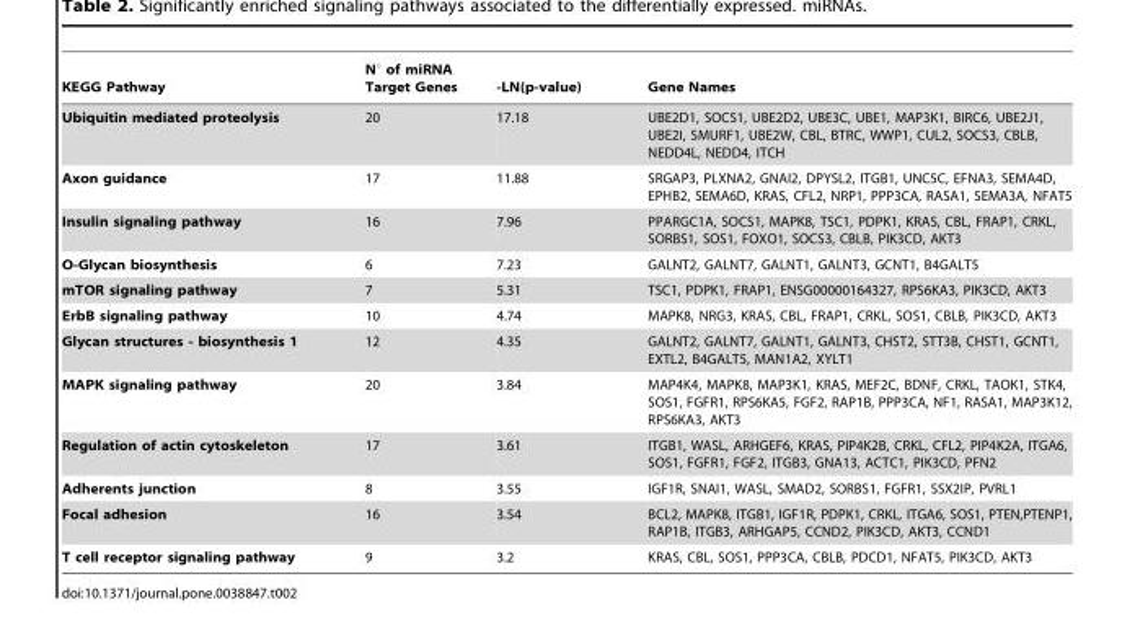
<table><thead><tr><td>KEGG Pathway</td><td>N° of miRNA Target Genes</td><td>-LN(p-value)</td><td>Gene Names</td></tr></thead><tbody><tr><td>Ubiquitin mediated proteolysis</td><td>20</td><td>17.18</td><td>UBE2D1, SOCS1, UBE2D2, UBE3C, UBE1, MAP3K1, BIRC6, UBE2J1, UBE2I, SMURF1, UBE2W, CBL, BTRC, WWP1, CUL2, SOCS3, CBLB, NEDD4L, NEDD4, ITCH</td></tr><tr><td>Axon guidance</td><td>17</td><td>11.88</td><td>SRGAP3, PLXNA2, GNAI2, DPYSL2, ITGB1, UNC5C, EFNA3, SEMA4D, EPHB2, SEMA6D, KRAS, CFL2, NRP1, PPP3CA, RASA1, SEMA3A, NFAT5</td></tr><tr><td>Insulin signaling pathway</td><td>16</td><td>7.96</td><td>PPARGC1A, SOCS1, MAPK8, TSC1, PDPK1, KRAS, CBL, FRAP1, CRKL, SORBS1, SOS1, FOXO1, SOCS3, CBLB, PIK3CD, AKT3</td></tr><tr><td>O-Glycan biosynthesis</td><td>6</td><td>7.23</td><td>GALNT2, GALNT7, GALNT1, GALNT3, GCNT1, B4GALT5</td></tr><tr><td>mTOR signaling pathway</td><td>7</td><td>5.31</td><td>TSC1, PDPK1, FRAP1, ENSG00000164327, RPS6KA3, PIK3CD, AKT3</td></tr><tr><td>ErbB signaling pathway</td><td>10</td><td>4.74</td><td>MAPK8, NRG3, KRAS, CBL, FRAP1, CRKL, SOS1, CBLB, PIK3CD, AKT3</td></tr><tr><td>Glycan structures - biosynthesis 1</td><td>12</td><td>4.35</td><td>GALNT2, GALNT7, GALNT1, GALNT3, CHST2, STT3B, CHST1, GCNT1, EXTL2, B4GALT5, MAN1A2, XYLT1</td></tr><tr><td>MAPK signaling pathway</td><td>20</td><td>3.84</td><td>MAP4K4, MAPK8, MAP3K1, KRAS, MEF2C, BDNF, CRKL, TAOK1, STK4, SOS1, FGFR1, RPS6KA5, FGF2, RAP1B, PPP3CA, NF1, RASA1, MAP3K12, RPS6KA3, AKT3</td></tr><tr><td>Regulation of actin cytoskeleton</td><td>17</td><td>3.61</td><td>ITGB1, WASL, ARHGEF6, KRAS, PIP4K2B, CRKL, CFL2, PIP4K2A, ITGA6, SOS1, FGFR1, FGF2, ITGB3, GNA13, ACTC1, PIK3CD, PFN2</td></tr><tr><td>Adherents junction</td><td>8</td><td>3.55</td><td>IGF1R, SNAI1, WASL, SMAD2, SORBS1, FGFR1, SSX2IP, PVRL1</td></tr><tr><td>Focal adhesion</td><td>16</td><td>3.54</td><td>BCL2, MAPK8, ITGB1, IGF1R, PDPK1, CRKL, ITGA6, SOS1, PTEN,PTENP1, RAP1B, ITGB3, ARHGAP5, CCND2, PIK3CD, AKT3, CCND1</td></tr><tr><td>T cell receptor signaling pathway</td><td>9</td><td>3.2</td><td>KRAS, CBL, SOS1, PPP3CA, CBLB, PDCD1, NFAT5, PIK3CD, AKT3</td></tr></tbody></table>